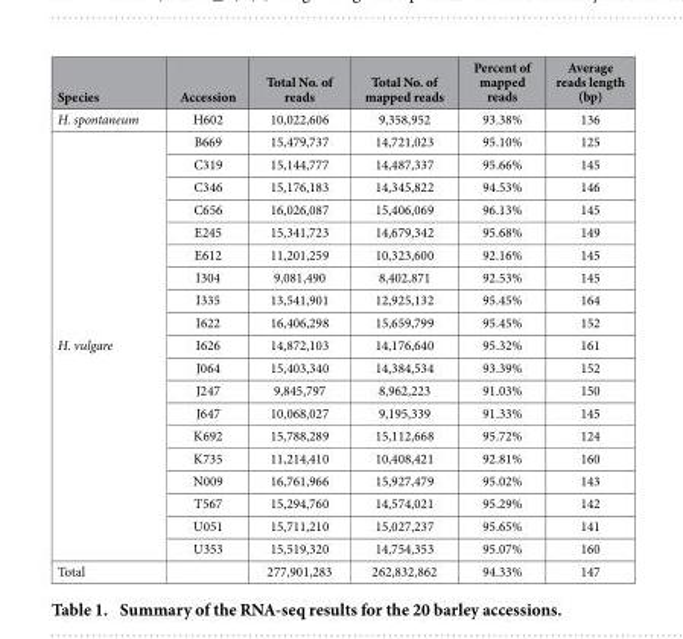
<table><thead><tr><td>Species</td><td>Accession</td><td>Total No. of reads</td><td>Total No. of mapped reads</td><td>Percent of mapped reads</td><td>Average reads length (bp)</td></tr></thead><tbody><tr><td>H. spontaneum</td><td>H602</td><td>10,022,606</td><td>9,358,952</td><td>93.38%</td><td>136</td></tr><tr><td rowspan="19">H. vulgare</td><td>B669</td><td>15,479,737</td><td>14,721,023</td><td>95.10%</td><td>125</td></tr><tr><td>C319</td><td>15,144,777</td><td>14,487,337</td><td>95.66%</td><td>145</td></tr><tr><td>C346</td><td>15,176,183</td><td>14,345,822</td><td>94.53%</td><td>146</td></tr><tr><td>C656</td><td>16,026,087</td><td>15,406,069</td><td>96.13%</td><td>145</td></tr><tr><td>E245</td><td>15,341,723</td><td>14,679,342</td><td>95.68%</td><td>149</td></tr><tr><td>E612</td><td>11,201,259</td><td>10,323,600</td><td>92.16%</td><td>145</td></tr><tr><td>I304</td><td>9,081,490</td><td>8,402,871</td><td>92.53%</td><td>145</td></tr><tr><td>I335</td><td>13,541,901</td><td>12,925,132</td><td>95.45%</td><td>164</td></tr><tr><td>I622</td><td>16,406,298</td><td>15,659,799</td><td>95.45%</td><td>152</td></tr><tr><td>I626</td><td>14,872,103</td><td>14,176,640</td><td>95.32%</td><td>161</td></tr><tr><td>J064</td><td>15,403,340</td><td>14,384,534</td><td>93.39%</td><td>152</td></tr><tr><td>J247</td><td>9,845,797</td><td>8,962,223</td><td>91.03%</td><td>150</td></tr><tr><td>J647</td><td>10,068,027</td><td>9,195,339</td><td>91.33%</td><td>145</td></tr><tr><td>K692</td><td>15,788,289</td><td>15,112,668</td><td>95.72%</td><td>124</td></tr><tr><td>K735</td><td>11,214,410</td><td>10,408,421</td><td>92.81%</td><td>160</td></tr><tr><td>N009</td><td>16,761,966</td><td>15,927,479</td><td>95.02%</td><td>143</td></tr><tr><td>T567</td><td>15,294,760</td><td>14,574,021</td><td>95.29%</td><td>142</td></tr><tr><td>U051</td><td>15,711,210</td><td>15,027,237</td><td>95.65%</td><td>141</td></tr><tr><td>U353</td><td>15,519,320</td><td>14,754,353</td><td>95.07%</td><td>160</td></tr><tr><td>Total</td><td></td><td>277,901,283</td><td>262,832,862</td><td>94.33%</td><td>147</td></tr></tbody></table>